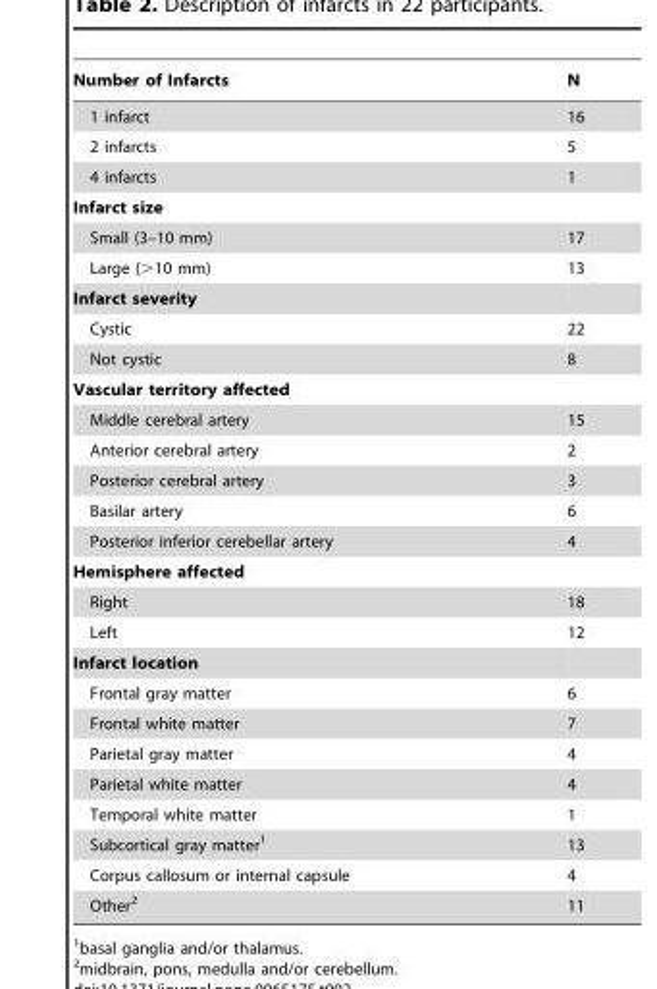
<table><thead><tr><td>Number of Infarcts</td><td>N</td></tr></thead><tbody><tr><td>1 infarct</td><td>16</td></tr><tr><td>2 infarcts</td><td>5</td></tr><tr><td>4 infarcts</td><td>1</td></tr><tr><td colspan="2">Infarct size</td></tr><tr><td>Small (3–10 mm)</td><td>17</td></tr><tr><td>Large (&gt;10 mm)</td><td>13</td></tr><tr><td colspan="2">Infarct severity</td></tr><tr><td>Cystic</td><td>22</td></tr><tr><td>Not cystic</td><td>8</td></tr><tr><td colspan="2">Vascular territory affected</td></tr><tr><td>Middle cerebral artery</td><td>15</td></tr><tr><td>Anterior cerebral artery</td><td>2</td></tr><tr><td>Posterior cerebral artery</td><td>3</td></tr><tr><td>Basilar artery</td><td>6</td></tr><tr><td>Posterior inferior cerebellar artery</td><td>4</td></tr><tr><td colspan="2">Hemisphere affected</td></tr><tr><td>Right</td><td>18</td></tr><tr><td>Left</td><td>12</td></tr><tr><td colspan="2">Infarct location</td></tr><tr><td>Frontal gray matter</td><td>6</td></tr><tr><td>Frontal white matter</td><td>7</td></tr><tr><td>Parietal gray matter</td><td>4</td></tr><tr><td>Parietal white matter</td><td>4</td></tr><tr><td>Temporal white matter</td><td>1</td></tr><tr><td>Subcortical gray matter<sup>1</sup></td><td>13</td></tr><tr><td>Corpus callosum or internal capsule</td><td>4</td></tr><tr><td>Other<sup>2</sup></td><td>11</td></tr></tbody></table>